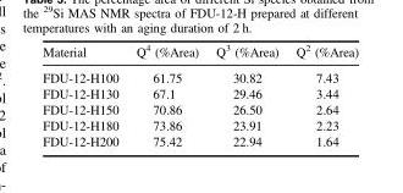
<table><thead><tr><td>Material</td><td>Q<sup>4</sup> (%Area)</td><td>Q<sup>3</sup> (%Area)</td><td>Q<sup>2</sup> (%Area)</td></tr></thead><tbody><tr><td>FDU-12-H100</td><td>61.75</td><td>30.82</td><td>7.43</td></tr><tr><td>FDU-12-H130</td><td>67.1</td><td>29.46</td><td>3.44</td></tr><tr><td>FDU-12-H150</td><td>70.86</td><td>26.50</td><td>2.64</td></tr><tr><td>FDU-12-H180</td><td>73.86</td><td>23.91</td><td>2.23</td></tr><tr><td>FDU-12-H200</td><td>75.42</td><td>22.94</td><td>1.64</td></tr></tbody></table>